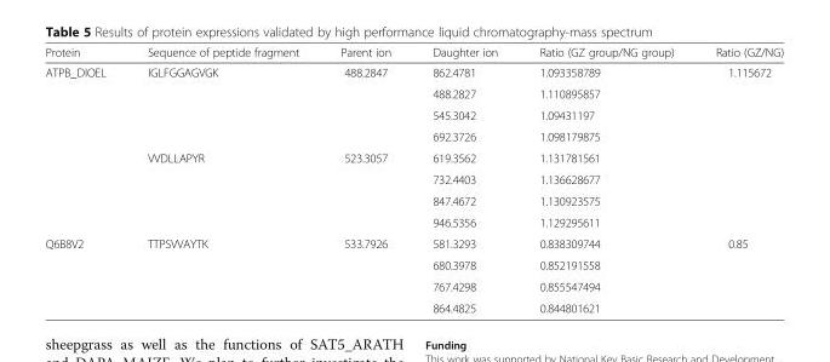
<table><thead><tr><td>Protein</td><td>Sequence of peptide fragment</td><td>Parent ion</td><td>Daughter ion</td><td>Ratio (GZ group/NG group)</td><td>Ratio (GZ/NG)</td></tr></thead><tbody><tr><td rowspan="8">ATPB_DIOEL</td><td>IGLFGGAGVGK</td><td>488.2847</td><td>862.4781</td><td>1.093358789</td><td>1.115672</td></tr><tr><td></td><td></td><td>488.2827</td><td>1.110895857</td><td></td></tr><tr><td></td><td></td><td>545.3042</td><td>1.09431197</td><td></td></tr><tr><td></td><td></td><td>692.3726</td><td>1.098179875</td><td></td></tr><tr><td>VVDLLAPYR</td><td>523.3057</td><td>619.3562</td><td>1.131781561</td><td></td></tr><tr><td></td><td></td><td>732.4403</td><td>1.136628677</td><td></td></tr><tr><td></td><td></td><td>847.4672</td><td>1.130923575</td><td></td></tr><tr><td></td><td></td><td>946.5356</td><td>1.129295611</td><td></td></tr><tr><td rowspan="4">Q6B8V2</td><td>TTPSVVAYTK</td><td>533.7926</td><td>581.3293</td><td>0.838309744</td><td>0.85</td></tr><tr><td></td><td></td><td>680.3978</td><td>0.852191558</td><td></td></tr><tr><td></td><td></td><td>767.4298</td><td>0.855547494</td><td></td></tr><tr><td></td><td></td><td>864.4825</td><td>0.844801621</td><td></td></tr></tbody></table>